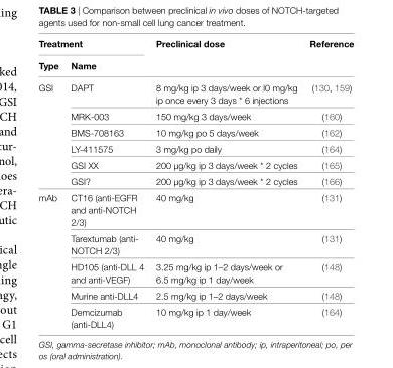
<table><thead><tr><td colspan="2">Treatment</td><td rowspan="2">Preclinical dose</td><td rowspan="2">Reference</td></tr><tr><td>Type</td><td>Name</td></tr></thead><tbody><tr><td rowspan="6">GSI</td><td>DAPT</td><td>8 mg/kg ip 3 days/week or l0 mg/kg ip once every 3 days * 6 injections</td><td>(130, 159)</td></tr><tr><td>MRK-003</td><td>150 mg/kg 3 days/week</td><td>(160)</td></tr><tr><td>BMS-708163</td><td>10 mg/kg po 5 days/week</td><td>(162)</td></tr><tr><td>LY-411575</td><td>3 mg/kg po daily</td><td>(164)</td></tr><tr><td>GSI XX</td><td>200 µg/kg ip 3 days/week * 2 cycles</td><td>(165)</td></tr><tr><td>GSI?</td><td>200 µg/kg ip 3 days/week * 2 cycles</td><td>(166)</td></tr><tr><td rowspan="5">mAb</td><td>CT16 (anti-EGFR and anti-NOTCH 2/3)</td><td>40 mg/kg</td><td>(131)</td></tr><tr><td>Tarextumab (anti- NOTCH 2/3)</td><td>40 mg/kg</td><td>(131)</td></tr><tr><td>HD105 (anti-DLL 4 and anti-VEGF)</td><td>3.25 mg/kg ip 1–2 days/week or 6.5 mg/kg ip 1 day/week</td><td>(148)</td></tr><tr><td>Murine anti-DLL4</td><td>2.5 mg/kg ip 1–2 days/week</td><td>(148)</td></tr><tr><td>Demcizumab (anti-DLL4)</td><td>10 mg/kg ip 1 day/week</td><td>(164)</td></tr></tbody></table>